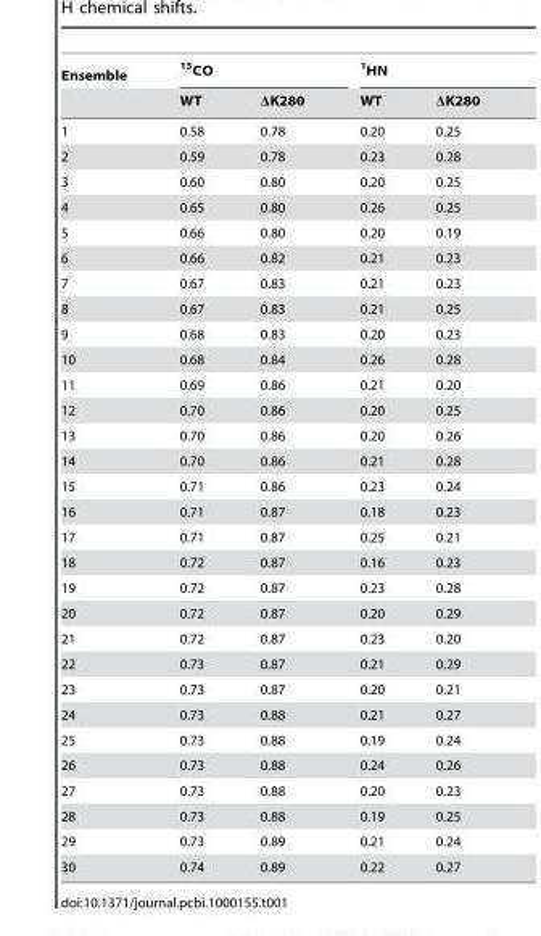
<table><thead><tr><td rowspan="2">Ensemble</td><td colspan="2"><sup>13</sup>CO</td><td colspan="2"><sup>1</sup>HN</td></tr><tr><td>WT</td><td>ΔK280</td><td>WT</td><td>ΔK280</td></tr></thead><tbody><tr><td>1</td><td>0.58</td><td>0.78</td><td>0.20</td><td>0.25</td></tr><tr><td>2</td><td>0.59</td><td>0.78</td><td>0.23</td><td>0.28</td></tr><tr><td>3</td><td>0.60</td><td>0.80</td><td>0.20</td><td>0.25</td></tr><tr><td>4</td><td>0.65</td><td>0.80</td><td>0.26</td><td>0.25</td></tr><tr><td>5</td><td>0.66</td><td>0.80</td><td>0.20</td><td>0.19</td></tr><tr><td>6</td><td>0.66</td><td>0.82</td><td>0.21</td><td>0.23</td></tr><tr><td>7</td><td>0.67</td><td>0.83</td><td>0.21</td><td>0.23</td></tr><tr><td>8</td><td>0.67</td><td>0.83</td><td>0.21</td><td>0.25</td></tr><tr><td>9</td><td>0.68</td><td>0.83</td><td>0.20</td><td>0.23</td></tr><tr><td>10</td><td>0.68</td><td>0.84</td><td>0.26</td><td>0.28</td></tr><tr><td>11</td><td>0.69</td><td>0.86</td><td>0.21</td><td>0.20</td></tr><tr><td>12</td><td>0.70</td><td>0.86</td><td>0.20</td><td>0.25</td></tr><tr><td>13</td><td>0.70</td><td>0.86</td><td>0.20</td><td>0.26</td></tr><tr><td>14</td><td>0.70</td><td>0.86</td><td>0.21</td><td>0.28</td></tr><tr><td>15</td><td>0.71</td><td>0.86</td><td>0.23</td><td>0.24</td></tr><tr><td>16</td><td>0.71</td><td>0.87</td><td>0.18</td><td>0.23</td></tr><tr><td>17</td><td>0.71</td><td>0.87</td><td>0.25</td><td>0.21</td></tr><tr><td>18</td><td>0.72</td><td>0.87</td><td>0.16</td><td>0.23</td></tr><tr><td>19</td><td>0.72</td><td>0.87</td><td>0.23</td><td>0.28</td></tr><tr><td>20</td><td>0.72</td><td>0.87</td><td>0.20</td><td>0.29</td></tr><tr><td>21</td><td>0.72</td><td>0.87</td><td>0.23</td><td>0.20</td></tr><tr><td>22</td><td>0.73</td><td>0.87</td><td>0.21</td><td>0.29</td></tr><tr><td>23</td><td>0.73</td><td>0.87</td><td>0.20</td><td>0.21</td></tr><tr><td>24</td><td>0.73</td><td>0.88</td><td>0.21</td><td>0.27</td></tr><tr><td>25</td><td>0.73</td><td>0.88</td><td>0.19</td><td>0.24</td></tr><tr><td>26</td><td>0.73</td><td>0.88</td><td>0.24</td><td>0.26</td></tr><tr><td>27</td><td>0.73</td><td>0.88</td><td>0.20</td><td>0.23</td></tr><tr><td>28</td><td>0.73</td><td>0.88</td><td>0.19</td><td>0.25</td></tr><tr><td>29</td><td>0.73</td><td>0.89</td><td>0.21</td><td>0.24</td></tr><tr><td>30</td><td>0.74</td><td>0.89</td><td>0.22</td><td>0.27</td></tr></tbody></table>